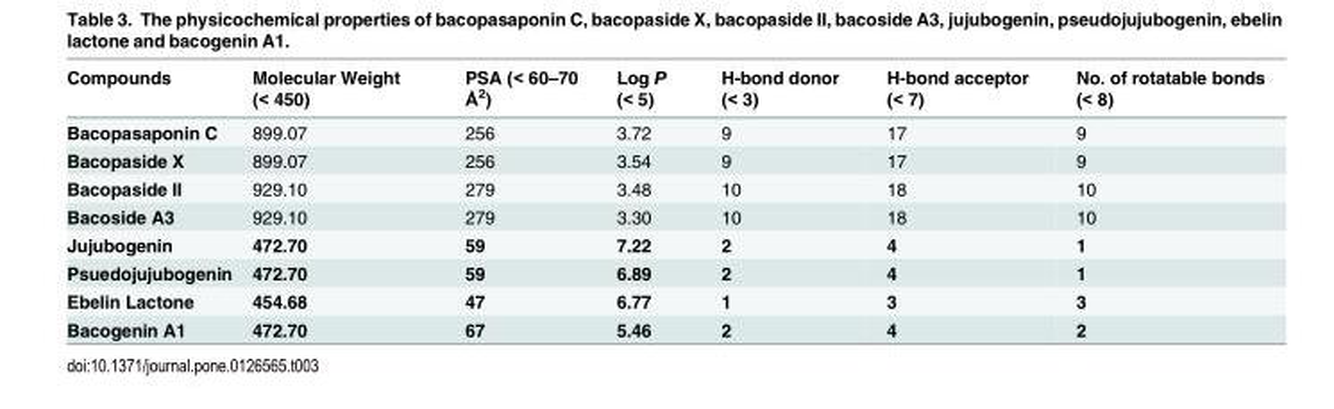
<table><thead><tr><td>Compounds</td><td>Molecular Weight (&lt; 450)</td><td>PSA (&lt; 60–70 Å<sup>2</sup>)</td><td>Log P (&lt; 5)</td><td>H-bond donor (&lt; 3)</td><td>H-bond acceptor (&lt; 7)</td><td>No. of rotatable bonds (&lt; 8)</td></tr></thead><tbody><tr><td>Bacopasaponin C</td><td>899.07</td><td>256</td><td>3.72</td><td>9</td><td>17</td><td>9</td></tr><tr><td>Bacopaside X</td><td>899.07</td><td>256</td><td>3.54</td><td>9</td><td>17</td><td>9</td></tr><tr><td>Bacopaside II</td><td>929.10</td><td>279</td><td>3.48</td><td>10</td><td>18</td><td>10</td></tr><tr><td>Bacoside A3</td><td>929.10</td><td>279</td><td>3.30</td><td>10</td><td>18</td><td>10</td></tr><tr><td>Jujubogenin</td><td>472.70</td><td>59</td><td>7.22</td><td>2</td><td>4</td><td>1</td></tr><tr><td>Psuedojujubogenin</td><td>472.70</td><td>59</td><td>6.89</td><td>2</td><td>4</td><td>1</td></tr><tr><td>Ebelin Lactone</td><td>454.68</td><td>47</td><td>6.77</td><td>1</td><td>3</td><td>3</td></tr><tr><td>Bacogenin A1</td><td>472.70</td><td>67</td><td>5.46</td><td>2</td><td>4</td><td>2</td></tr></tbody></table>